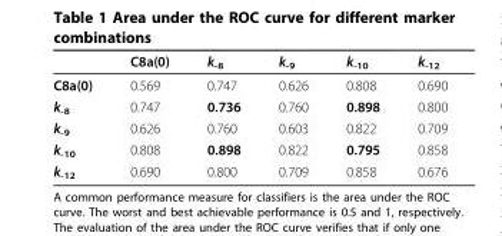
<table><thead><tr><td></td><td>C8a(0)</td><td>k<sub>-8</sub></td><td>k<sub>-9</sub></td><td>k<sub>-10</sub></td><td>k<sub>-12</sub></td></tr></thead><tbody><tr><td>C8a(0)</td><td>0.569</td><td>0.747</td><td>0.626</td><td>0.808</td><td>0.690</td></tr><tr><td>k<sub>-8</sub></td><td>0.747</td><td>0.736</td><td>0.760</td><td>0.898</td><td>0.800</td></tr><tr><td>k<sub>-9</sub></td><td>0.626</td><td>0.760</td><td>0.603</td><td>0.822</td><td>0.709</td></tr><tr><td>k<sub>-10</sub></td><td>0.808</td><td>0.898</td><td>0.822</td><td>0.795</td><td>0.858</td></tr><tr><td>k<sub>-12</sub></td><td>0.690</td><td>0.800</td><td>0.709</td><td>0.858</td><td>0.676</td></tr></tbody></table>